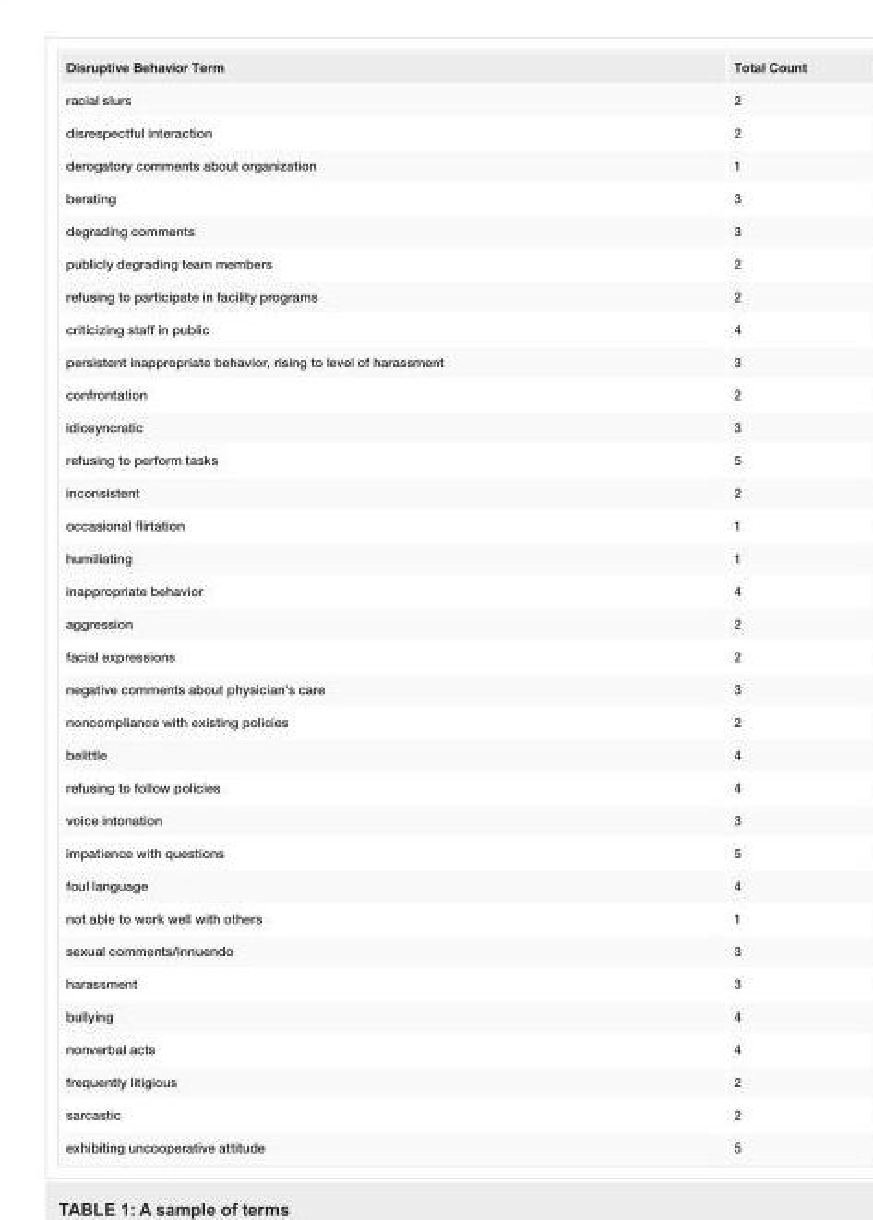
<table><tbody><tr><td>Disruptive Behavior Term</td><td>Total Count</td></tr><tr><td>racial slurs</td><td>2</td></tr><tr><td>disrespectful interaction</td><td>2</td></tr><tr><td>derogatory comments about organization</td><td>1</td></tr><tr><td>berating</td><td>3</td></tr><tr><td>degrading comments</td><td>3</td></tr><tr><td>publicly degrading team members</td><td>2</td></tr><tr><td>refusing to participate in facility programs</td><td>2</td></tr><tr><td>criticizing staff in public</td><td>4</td></tr><tr><td>persistent inappropriate behavior, rising to level of harassment</td><td>3</td></tr><tr><td>confrontation</td><td>2</td></tr><tr><td>idiosyncratic</td><td>3</td></tr><tr><td>refusing to perform tasks</td><td>5</td></tr><tr><td>inconsistent</td><td>2</td></tr><tr><td>occasional flirtation</td><td>1</td></tr><tr><td>humiliating</td><td>1</td></tr><tr><td>inappropriate behavior</td><td>4</td></tr><tr><td>aggression</td><td>2</td></tr><tr><td>facial expressions</td><td>2</td></tr><tr><td>negative comments about physician&#x27;s care</td><td>3</td></tr><tr><td>noncompliance with existing policies</td><td>2</td></tr><tr><td>belittle</td><td>4</td></tr><tr><td>refusing to follow policies</td><td>4</td></tr><tr><td>voice intonation</td><td>3</td></tr><tr><td>impatience with questions</td><td>5</td></tr><tr><td>foul language</td><td>4</td></tr><tr><td>not able to work well with others</td><td>1</td></tr><tr><td>sexual comments/innuendo</td><td>3</td></tr><tr><td>harassment</td><td>3</td></tr><tr><td>bullying</td><td>4</td></tr><tr><td>nonverbal acts</td><td>4</td></tr><tr><td>frequently litigious</td><td>2</td></tr><tr><td>sarcastic</td><td>2</td></tr><tr><td>exhibiting uncooperative attitude</td><td>5</td></tr></tbody></table>